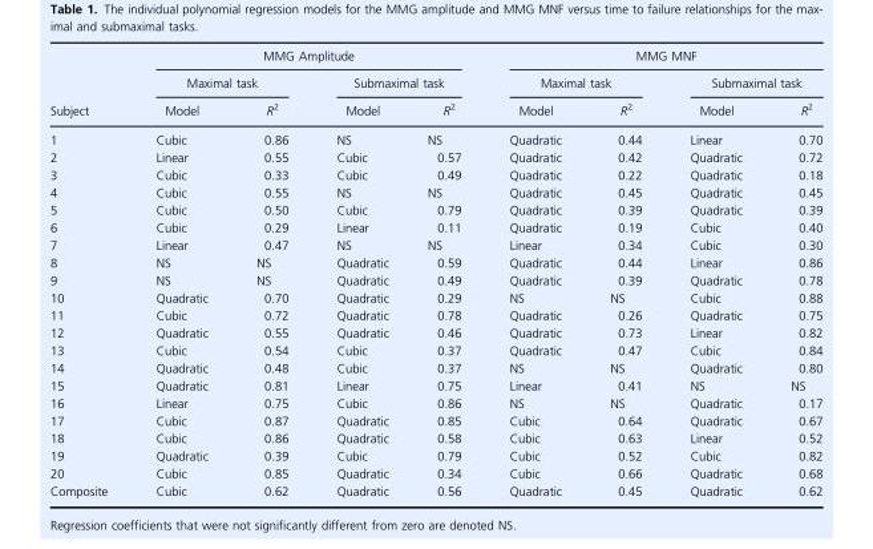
<table><thead><tr><td rowspan="3">Subject</td><td colspan="4">MMG Amplitude</td><td colspan="4">MMG MNF</td></tr><tr><td colspan="2">Maximal task</td><td colspan="2">Submaximal task</td><td colspan="2">Maximal task</td><td colspan="2">Submaximal task</td></tr><tr><td>Model</td><td>R<sup>2</sup></td><td>Model</td><td>R<sup>2</sup></td><td>Model</td><td>R<sup>2</sup></td><td>Model</td><td>R<sup>2</sup></td></tr></thead><tbody><tr><td>1</td><td>Cubic</td><td>0.86</td><td>NS</td><td>NS</td><td>Quadratic</td><td>0.44</td><td>Linear</td><td>0.70</td></tr><tr><td>2</td><td>Linear</td><td>0.55</td><td>Cubic</td><td>0.57</td><td>Quadratic</td><td>0.42</td><td>Quadratic</td><td>0.72</td></tr><tr><td>3</td><td>Cubic</td><td>0.33</td><td>Cubic</td><td>0.49</td><td>Quadratic</td><td>0.22</td><td>Quadratic</td><td>0.18</td></tr><tr><td>4</td><td>Cubic</td><td>0.55</td><td>NS</td><td>NS</td><td>Quadratic</td><td>0.45</td><td>Quadratic</td><td>0.45</td></tr><tr><td>5</td><td>Cubic</td><td>0.50</td><td>Cubic</td><td>0.79</td><td>Quadratic</td><td>0.39</td><td>Quadratic</td><td>0.39</td></tr><tr><td>6</td><td>Cubic</td><td>0.29</td><td>Linear</td><td>0.11</td><td>Quadratic</td><td>0.19</td><td>Cubic</td><td>0.40</td></tr><tr><td>7</td><td>Linear</td><td>0.47</td><td>NS</td><td>NS</td><td>Linear</td><td>0.34</td><td>Cubic</td><td>0.30</td></tr><tr><td>8</td><td>NS</td><td>NS</td><td>Quadratic</td><td>0.59</td><td>Quadratic</td><td>0.44</td><td>Linear</td><td>0.86</td></tr><tr><td>9</td><td>NS</td><td>NS</td><td>Quadratic</td><td>0.49</td><td>Quadratic</td><td>0.39</td><td>Quadratic</td><td>0.78</td></tr><tr><td>10</td><td>Quadratic</td><td>0.70</td><td>Quadratic</td><td>0.29</td><td>NS</td><td>NS</td><td>Cubic</td><td>0.88</td></tr><tr><td>11</td><td>Cubic</td><td>0.72</td><td>Quadratic</td><td>0.78</td><td>Quadratic</td><td>0.26</td><td>Quadratic</td><td>0.75</td></tr><tr><td>12</td><td>Quadratic</td><td>0.55</td><td>Quadratic</td><td>0.46</td><td>Quadratic</td><td>0.73</td><td>Linear</td><td>0.82</td></tr><tr><td>13</td><td>Cubic</td><td>0.54</td><td>Cubic</td><td>0.37</td><td>Quadratic</td><td>0.47</td><td>Cubic</td><td>0.84</td></tr><tr><td>14</td><td>Quadratic</td><td>0.48</td><td>Cubic</td><td>0.37</td><td>NS</td><td>NS</td><td>Quadratic</td><td>0.80</td></tr><tr><td>15</td><td>Quadratic</td><td>0.81</td><td>Linear</td><td>0.75</td><td>Linear</td><td>0.41</td><td>NS</td><td>NS</td></tr><tr><td>16</td><td>Linear</td><td>0.75</td><td>Cubic</td><td>0.86</td><td>NS</td><td>NS</td><td>Quadratic</td><td>0.17</td></tr><tr><td>17</td><td>Cubic</td><td>0.87</td><td>Quadratic</td><td>0.85</td><td>Cubic</td><td>0.64</td><td>Quadratic</td><td>0.67</td></tr><tr><td>18</td><td>Cubic</td><td>0.86</td><td>Quadratic</td><td>0.58</td><td>Cubic</td><td>0.63</td><td>Linear</td><td>0.52</td></tr><tr><td>19</td><td>Quadratic</td><td>0.39</td><td>Cubic</td><td>0.79</td><td>Cubic</td><td>0.52</td><td>Cubic</td><td>0.82</td></tr><tr><td>20</td><td>Cubic</td><td>0.85</td><td>Quadratic</td><td>0.34</td><td>Cubic</td><td>0.66</td><td>Quadratic</td><td>0.68</td></tr><tr><td>Composite</td><td>Cubic</td><td>0.62</td><td>Quadratic</td><td>0.56</td><td>Quadratic</td><td>0.45</td><td>Quadratic</td><td>0.62</td></tr></tbody></table>